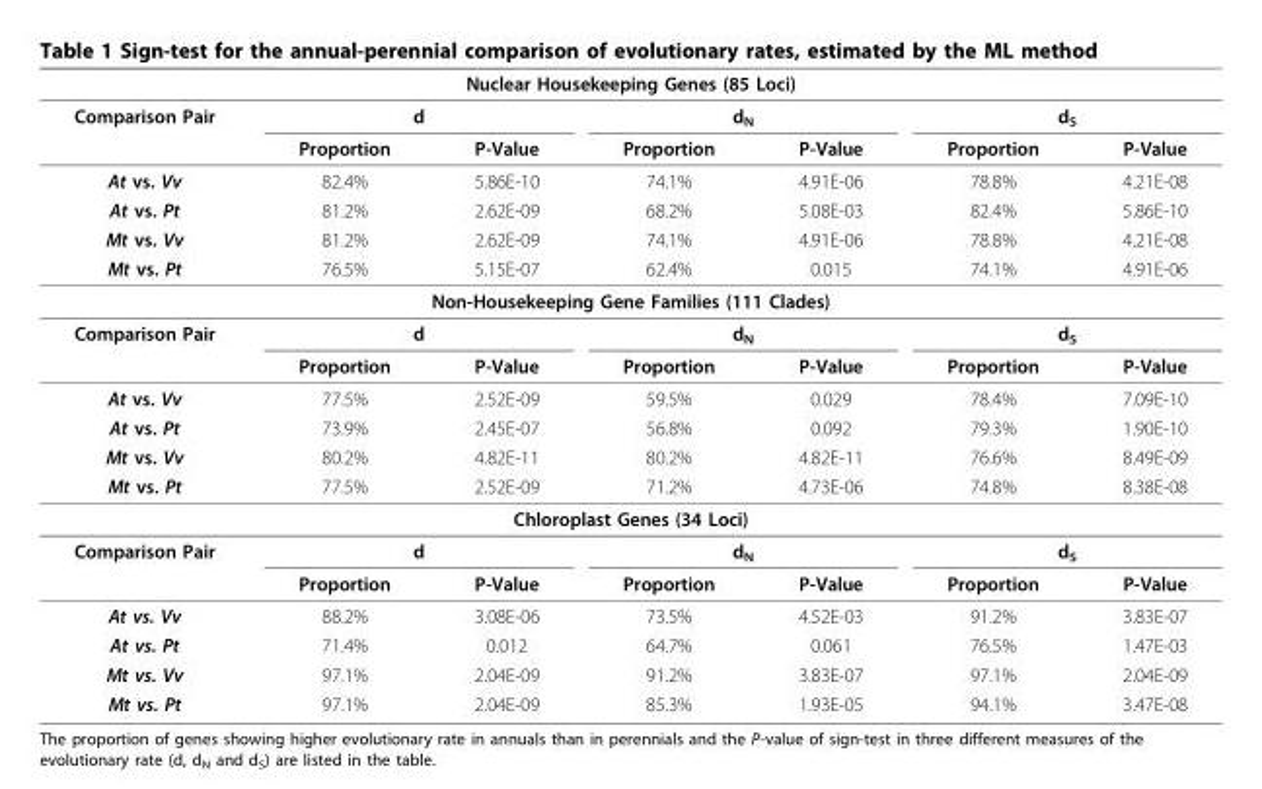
<table><thead><tr><td colspan="7">Nuclear Housekeeping Genes (85 Loci)</td></tr><tr><td rowspan="2">Comparison Pair</td><td colspan="2">d</td><td colspan="2">d<sub>N</sub></td><td colspan="2">d<sub>S</sub></td></tr><tr><td>Proportion</td><td>P-Value</td><td>Proportion</td><td>P-Value</td><td>Proportion</td><td>P-Value</td></tr></thead><tbody><tr><td>At vs. Vv</td><td>82.4%</td><td>5.86E-10</td><td>74.1%</td><td>4.91E-06</td><td>78.8%</td><td>4.21E-08</td></tr><tr><td>At vs. Pt</td><td>81.2%</td><td>2.62E-09</td><td>68.2%</td><td>5.08E-03</td><td>82.4%</td><td>5.86E-10</td></tr><tr><td>Mt vs. Vv</td><td>81.2%</td><td>2.62E-09</td><td>74.1%</td><td>4.91E-06</td><td>78.8%</td><td>4.21E-08</td></tr><tr><td>Mt vs. Pt</td><td>76.5%</td><td>5.15E-07</td><td>62.4%</td><td>0.015</td><td>74.1%</td><td>4.91E-06</td></tr><tr><td colspan="7">Non-Housekeeping Gene Families (111 Clades)</td></tr><tr><td rowspan="2">Comparison Pair</td><td colspan="2">d</td><td colspan="2">d<sub>N</sub></td><td colspan="2">d<sub>S</sub></td></tr><tr><td>Proportion</td><td>P-Value</td><td>Proportion</td><td>P-Value</td><td>Proportion</td><td>P-Value</td></tr><tr><td>At vs. Vv</td><td>77.5%</td><td>2.52E-09</td><td>59.5%</td><td>0.029</td><td>78.4%</td><td>7.09E-10</td></tr><tr><td>At vs. Pt</td><td>73.9%</td><td>2.45E-07</td><td>56.8%</td><td>0.092</td><td>79.3%</td><td>1.90E-10</td></tr><tr><td>Mt vs. Vv</td><td>80.2%</td><td>4.82E-11</td><td>80.2%</td><td>4.82E-11</td><td>76.6%</td><td>8.49E-09</td></tr><tr><td>Mt vs. Pt</td><td>77.5%</td><td>2.52E-09</td><td>71.2%</td><td>4.73E-06</td><td>74.8%</td><td>8.38E-08</td></tr><tr><td colspan="7">Chloroplast Genes (34 Loci)</td></tr><tr><td rowspan="2">Comparison Pair</td><td colspan="2">d</td><td colspan="2">d<sub>N</sub></td><td colspan="2">d<sub>S</sub></td></tr><tr><td>Proportion</td><td>P-Value</td><td>Proportion</td><td>P-Value</td><td>Proportion</td><td>P-Value</td></tr><tr><td>At vs. Vv</td><td>88.2%</td><td>3.08E-06</td><td>73.5%</td><td>4.52E-03</td><td>91.2%</td><td>3.83E-07</td></tr><tr><td>At vs. Pt</td><td>71.4%</td><td>0.012</td><td>64.7%</td><td>0.061</td><td>76.5%</td><td>1.47E-03</td></tr><tr><td>Mt vs. Vv</td><td>97.1%</td><td>2.04E-09</td><td>91.2%</td><td>3.83E-07</td><td>97.1%</td><td>2.04E-09</td></tr><tr><td>Mt vs. Pt</td><td>97.1%</td><td>2.04E-09</td><td>85.3%</td><td>1.93E-05</td><td>94.1%</td><td>3.47E-08</td></tr></tbody></table>